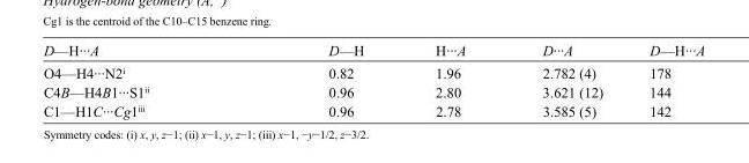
<table><tbody><tr><td>D—H···A</td><td>D—H</td><td>H···A</td><td>D···A</td><td>D—H···A</td></tr><tr><td>O4—H4···N2<sup>i</sup></td><td>0.82</td><td>1.96</td><td>2.782 (4)</td><td>178</td></tr><tr><td>C4B—H4B1···S1<sup>ii</sup></td><td>0.96</td><td>2.80</td><td>3.621 (12)</td><td>144</td></tr><tr><td>C1—H1C···Cg1<sup>iii</sup></td><td>0.96</td><td>2.78</td><td>3.585 (5)</td><td>142</td></tr></tbody></table>